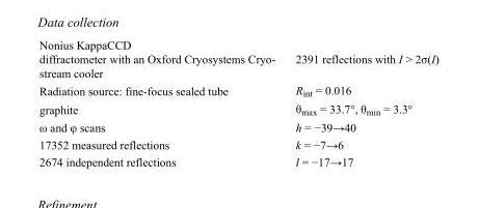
<table><tbody><tr><td>Nonius KappaCCD diffractometer with an Oxford Cryosystems Cryo- stream cooler</td><td>2391 reflections with I &gt; 2σ(I)</td></tr><tr><td>Radiation source: fine-focus sealed tube</td><td>R<sub>int</sub> = 0.016</td></tr><tr><td>graphite</td><td>θ<sub>max</sub> = 33.7°, θ<sub>min</sub> = 3.3°</td></tr><tr><td>ω and φ scans</td><td>h = −39→40</td></tr><tr><td>17352 measured reflections</td><td>k = −7→6</td></tr><tr><td>2674 independent reflections</td><td>l = −17→17</td></tr></tbody></table>